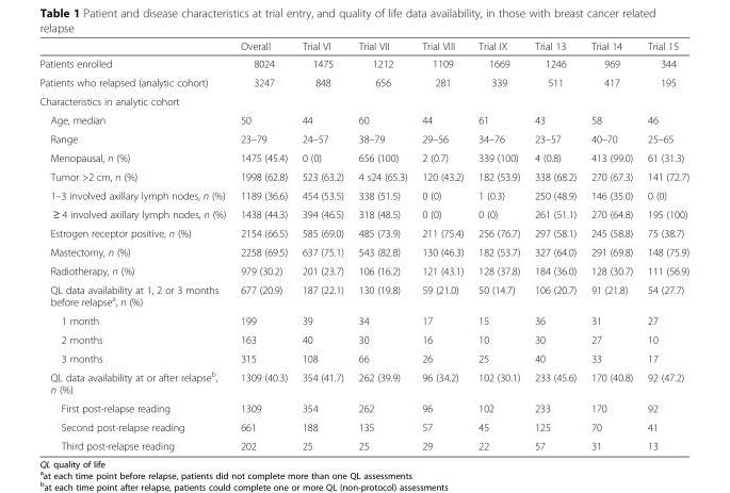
<table><thead><tr><td></td><td>Overall</td><td>Trial VI</td><td>Trial VII</td><td>Trial VIII</td><td>Trial IX</td><td>Trial 13</td><td>Trial 14</td><td>Trial 15</td></tr></thead><tbody><tr><td>Patients enrolled</td><td>8024</td><td>1475</td><td>1212</td><td>1109</td><td>1669</td><td>1246</td><td>969</td><td>344</td></tr><tr><td>Patients who relapsed (analytic cohort)</td><td>3247</td><td>848</td><td>656</td><td>281</td><td>339</td><td>511</td><td>417</td><td>195</td></tr><tr><td colspan="9">Characteristics in analytic cohort</td></tr><tr><td>Age, median</td><td>50</td><td>44</td><td>60</td><td>44</td><td>61</td><td>43</td><td>58</td><td>46</td></tr><tr><td>Range</td><td>23–79</td><td>24–57</td><td>38–79</td><td>29–56</td><td>34–76</td><td>23–57</td><td>40–70</td><td>25–65</td></tr><tr><td>Menopausal, n (%)</td><td>1475 (45.4)</td><td>0 (0)</td><td>656 (100)</td><td>2 (0.7)</td><td>339 (100)</td><td>4 (0.8)</td><td>413 (99.0)</td><td>61 (31.3)</td></tr><tr><td>Tumor &gt;2 cm, n (%)</td><td>1998 (62.8)</td><td>523 (63.2)</td><td>4 s24 (65.3)</td><td>120 (43.2)</td><td>182 (53.9)</td><td>338 (68.2)</td><td>270 (67.3)</td><td>141 (72.7)</td></tr><tr><td>1–3 involved axillary lymph nodes, n (%)</td><td>1189 (36.6)</td><td>454 (53.5)</td><td>338 (51.5)</td><td>0 (0)</td><td>1 (0.3)</td><td>250 (48.9)</td><td>146 (35.0)</td><td>0 (0)</td></tr><tr><td>≥ 4 involved axillary lymph nodes, n (%)</td><td>1438 (44.3)</td><td>394 (46.5)</td><td>318 (48.5)</td><td>0 (0)</td><td>0 (0)</td><td>261 (51.1)</td><td>270 (64.8)</td><td>195 (100)</td></tr><tr><td>Estrogen receptor positive, n (%)</td><td>2154 (66.5)</td><td>585 (69.0)</td><td>485 (73.9)</td><td>211 (75.4)</td><td>256 (76.7)</td><td>297 (58.1)</td><td>245 (58.8)</td><td>75 (38.7)</td></tr><tr><td>Mastectomy, n (%)</td><td>2258 (69.5)</td><td>637 (75.1)</td><td>543 (82.8)</td><td>130 (46.3)</td><td>182 (53.7)</td><td>327 (64.0)</td><td>291 (69.8)</td><td>148 (75.9)</td></tr><tr><td>Radiotherapy, n (%)</td><td>979 (30.2)</td><td>201 (23.7)</td><td>106 (16.2)</td><td>121 (43.1)</td><td>128 (37.8)</td><td>184 (36.0)</td><td>128 (30.7)</td><td>111 (56.9)</td></tr><tr><td>QL data availability at 1, 2 or 3 months before relapse<sup>a</sup>, n (%)</td><td>677 (20.9)</td><td>187 (22.1)</td><td>130 (19.8)</td><td>59 (21.0)</td><td>50 (14.7)</td><td>106 (20.7)</td><td>91 (21.8)</td><td>54 (27.7)</td></tr><tr><td>1 month</td><td>199</td><td>39</td><td>34</td><td>17</td><td>15</td><td>36</td><td>31</td><td>27</td></tr><tr><td>2 months</td><td>163</td><td>40</td><td>30</td><td>16</td><td>10</td><td>30</td><td>27</td><td>10</td></tr><tr><td>3 months</td><td>315</td><td>108</td><td>66</td><td>26</td><td>25</td><td>40</td><td>33</td><td>17</td></tr><tr><td>QL data availability at or after relapse<sup>b</sup>, n (%)</td><td>1309 (40.3)</td><td>354 (41.7)</td><td>262 (39.9)</td><td>96 (34.2)</td><td>102 (30.1)</td><td>233 (45.6)</td><td>170 (40.8)</td><td>92 (47.2)</td></tr><tr><td>First post-relapse reading</td><td>1309</td><td>354</td><td>262</td><td>96</td><td>102</td><td>233</td><td>170</td><td>92</td></tr><tr><td>Second post-relapse reading</td><td>661</td><td>188</td><td>135</td><td>57</td><td>45</td><td>125</td><td>70</td><td>41</td></tr><tr><td>Third post-relapse reading</td><td>202</td><td>25</td><td>25</td><td>29</td><td>22</td><td>57</td><td>31</td><td>13</td></tr></tbody></table>